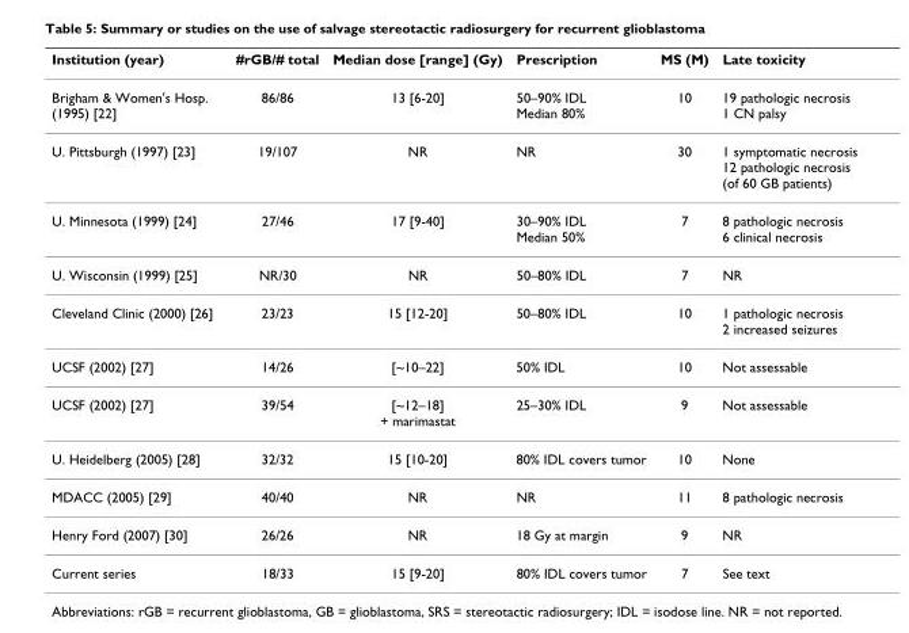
<table><thead><tr><td>Institution (year)</td><td>#rGB/# total</td><td>Median dose [range] (Gy)</td><td>Prescription</td><td>MS (M)</td><td>Late toxicity</td></tr></thead><tbody><tr><td>Brigham &amp; Women&#x27;s Hosp. (1995) [22]</td><td>86/86</td><td>13 [6-20]</td><td>50–90% IDL Median 80%</td><td>10</td><td>19 pathologic necrosis 1 CN palsy</td></tr><tr><td>U. Pittsburgh (1997) [23]</td><td>19/107</td><td>NR</td><td>NR</td><td>30</td><td>1 symptomatic necrosis 12 pathologic necrosis (of 60 GB patients)</td></tr><tr><td>U. Minnesota (1999) [24]</td><td>27/46</td><td>17 [9-40]</td><td>30–90% IDL Median 50%</td><td>7</td><td>8 pathologic necrosis 6 clinical necrosis</td></tr><tr><td>U. Wisconsin (1999) [25]</td><td>NR/30</td><td>NR</td><td>50–80% IDL</td><td>7</td><td>NR</td></tr><tr><td>Cleveland Clinic (2000) [26]</td><td>23/23</td><td>15 [12-20]</td><td>50–80% IDL</td><td>10</td><td>1 pathologic necrosis 2 increased seizures</td></tr><tr><td>UCSF (2002) [27]</td><td>14/26</td><td>[~10–22]</td><td>50% IDL</td><td>10</td><td>Not assessable</td></tr><tr><td>UCSF (2002) [27]</td><td>39/54</td><td>[~12–18] + marimastat</td><td>25–30% IDL</td><td>9</td><td>Not assessable</td></tr><tr><td>U. Heidelberg (2005) [28]</td><td>32/32</td><td>15 [10-20]</td><td>80% IDL covers tumor</td><td>10</td><td>None</td></tr><tr><td>MDACC (2005) [29]</td><td>40/40</td><td>NR</td><td>NR</td><td>11</td><td>8 pathologic necrosis</td></tr><tr><td>Henry Ford (2007) [30]</td><td>26/26</td><td>NR</td><td>18 Gy at margin</td><td>9</td><td>NR</td></tr><tr><td>Current series</td><td>18/33</td><td>15 [9-20]</td><td>80% IDL covers tumor</td><td>7</td><td>See text</td></tr></tbody></table>